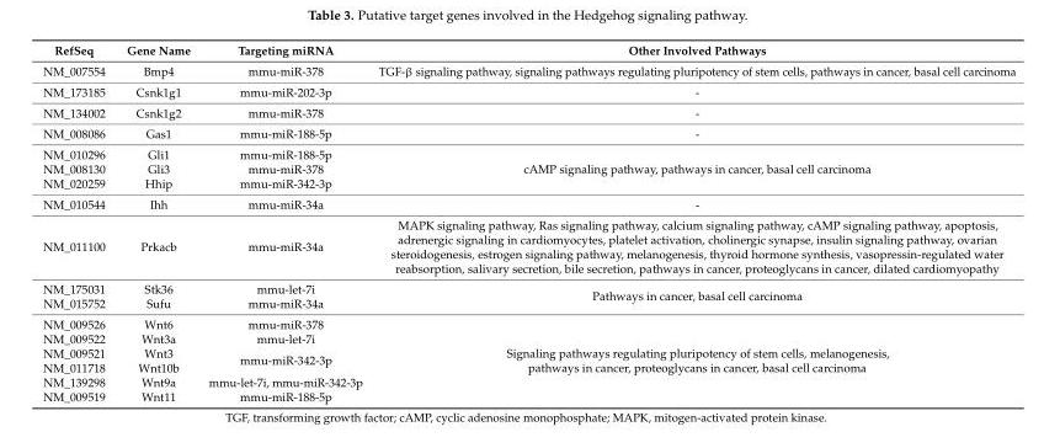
<table><thead><tr><td>RefSeq</td><td>Gene Name</td><td>Targeting miRNA</td><td>Other Involved Pathways</td></tr></thead><tbody><tr><td>NM_007554</td><td>Bmp4</td><td>mmu-miR-378</td><td>TGF-β signaling pathway, signaling pathways regulating pluripotency of stem cells, pathways in cancer, basal cell carcinoma</td></tr><tr><td>NM_173185</td><td>Csnk1g1</td><td>mmu-miR-202-3p</td><td>-</td></tr><tr><td>NM_134002</td><td>Csnk1g2</td><td>mmu-miR-378</td><td>-</td></tr><tr><td>NM_008086</td><td>Gas1</td><td>mmu-miR-188-5p</td><td>-</td></tr><tr><td>NM_010296</td><td>Gli1</td><td>mmu-miR-188-5p</td><td rowspan="3">cAMP signaling pathway, pathways in cancer, basal cell carcinoma</td></tr><tr><td>NM_008130</td><td>Gli3</td><td>mmu-miR-378</td></tr><tr><td>NM_020259</td><td>Hhip</td><td>mmu-miR-342-3p</td></tr><tr><td>NM_010544</td><td>Ihh</td><td>mmu-miR-34a</td><td>-</td></tr><tr><td>NM_011100</td><td>Prkacb</td><td>mmu-miR-34a</td><td>MAPK signaling pathway, Ras signaling pathway, calcium signaling pathway, cAMP signaling pathway, apoptosis, adrenergic signaling in cardiomyocytes, platelet activation, cholinergic synapse, insulin signaling pathway, ovarian steroidogenesis, estrogen signaling pathway, melanogenesis, thyroid hormone synthesis, vasopressin-regulated water reabsorption, salivary secretion, bile secretion, pathways in cancer, proteoglycans in cancer, dilated cardiomyopathy</td></tr><tr><td>NM_175031</td><td>Stk36</td><td>mmu-let-7i</td><td rowspan="2">Pathways in cancer, basal cell carcinoma</td></tr><tr><td>NM_015752</td><td>Sufu</td><td>mmu-miR-34a</td></tr><tr><td>NM_009526</td><td>Wnt6</td><td>mmu-miR-378</td><td rowspan="6">Signaling pathways regulating pluripotency of stem cells, melanogenesis, pathways in cancer, proteoglycans in cancer, basal cell carcinoma</td></tr><tr><td>NM_009522</td><td>Wnt3a</td><td>mmu-let-7i</td></tr><tr><td>NM_009521</td><td>Wnt3</td><td rowspan="2">mmu-miR-342-3p</td></tr><tr><td>NM_011718</td><td>Wnt10b</td></tr><tr><td>NM_139298</td><td>Wnt9a</td><td>mmu-let-7i, mmu-miR-342-3p</td></tr><tr><td>NM_009519</td><td>Wnt11</td><td>mmu-miR-188-5p</td></tr></tbody></table>